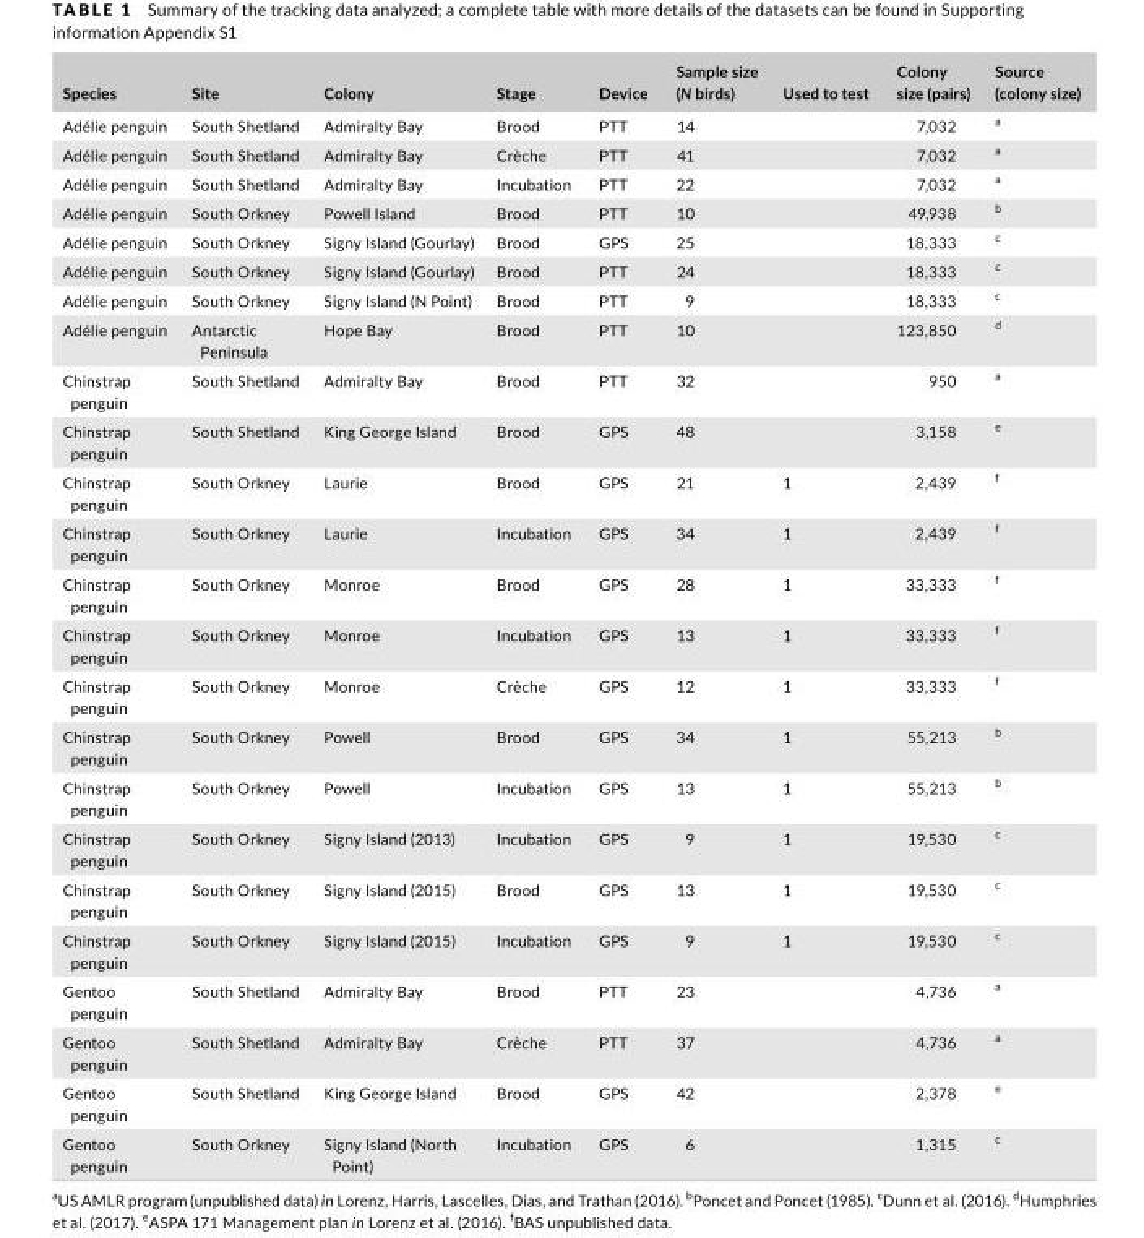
<table><thead><tr><td>Species</td><td>Site</td><td>Colony</td><td>Stage</td><td>Device</td><td>Sample size (N birds)</td><td>Used to test</td><td>Colony size (pairs)</td><td>Source (colony size)</td></tr></thead><tbody><tr><td>Adélie penguin</td><td>South Shetland</td><td>Admiralty Bay</td><td>Brood</td><td>PTT</td><td>14</td><td></td><td>7,032</td><td>a</td></tr><tr><td>Adélie penguin</td><td>South Shetland</td><td>Admiralty Bay</td><td>Crèche</td><td>PTT</td><td>41</td><td></td><td>7,032</td><td>a</td></tr><tr><td>Adélie penguin</td><td>South Shetland</td><td>Admiralty Bay</td><td>Incubation</td><td>PTT</td><td>22</td><td></td><td>7,032</td><td>a</td></tr><tr><td>Adélie penguin</td><td>South Orkney</td><td>Powell Island</td><td>Brood</td><td>PTT</td><td>10</td><td></td><td>49,938</td><td>b</td></tr><tr><td>Adélie penguin</td><td>South Orkney</td><td>Signy Island (Gourlay)</td><td>Brood</td><td>GPS</td><td>25</td><td></td><td>18,333</td><td>c</td></tr><tr><td>Adélie penguin</td><td>South Orkney</td><td>Signy Island (Gourlay)</td><td>Brood</td><td>PTT</td><td>24</td><td></td><td>18,333</td><td>c</td></tr><tr><td>Adélie penguin</td><td>South Orkney</td><td>Signy Island (N Point)</td><td>Brood</td><td>PTT</td><td>9</td><td></td><td>18,333</td><td>c</td></tr><tr><td>Adélie penguin</td><td>Antarctic Peninsula</td><td>Hope Bay</td><td>Brood</td><td>PTT</td><td>10</td><td></td><td>123,850</td><td>d</td></tr><tr><td>Chinstrap penguin</td><td>South Shetland</td><td>Admiralty Bay</td><td>Brood</td><td>PTT</td><td>32</td><td></td><td>950</td><td>a</td></tr><tr><td>Chinstrap penguin</td><td>South Shetland</td><td>King George Island</td><td>Brood</td><td>GPS</td><td>48</td><td></td><td>3,158</td><td>e</td></tr><tr><td>Chinstrap penguin</td><td>South Orkney</td><td>Laurie</td><td>Brood</td><td>GPS</td><td>21</td><td>1</td><td>2,439</td><td>f</td></tr><tr><td>Chinstrap penguin</td><td>South Orkney</td><td>Laurie</td><td>Incubation</td><td>GPS</td><td>34</td><td>1</td><td>2,439</td><td>f</td></tr><tr><td>Chinstrap penguin</td><td>South Orkney</td><td>Monroe</td><td>Brood</td><td>GPS</td><td>28</td><td>1</td><td>33,333</td><td>f</td></tr><tr><td>Chinstrap penguin</td><td>South Orkney</td><td>Monroe</td><td>Incubation</td><td>GPS</td><td>13</td><td>1</td><td>33,333</td><td>f</td></tr><tr><td>Chinstrap penguin</td><td>South Orkney</td><td>Monroe</td><td>Crèche</td><td>GPS</td><td>12</td><td>1</td><td>33,333</td><td>f</td></tr><tr><td>Chinstrap penguin</td><td>South Orkney</td><td>Powell</td><td>Brood</td><td>GPS</td><td>34</td><td>1</td><td>55,213</td><td>b</td></tr><tr><td>Chinstrap penguin</td><td>South Orkney</td><td>Powell</td><td>Incubation</td><td>GPS</td><td>13</td><td>1</td><td>55,213</td><td>b</td></tr><tr><td>Chinstrap penguin</td><td>South Orkney</td><td>Signy Island (2013)</td><td>Incubation</td><td>GPS</td><td>9</td><td>1</td><td>19,530</td><td>c</td></tr><tr><td>Chinstrap penguin</td><td>South Orkney</td><td>Signy Island (2015)</td><td>Brood</td><td>GPS</td><td>13</td><td>1</td><td>19,530</td><td>c</td></tr><tr><td>Chinstrap penguin</td><td>South Orkney</td><td>Signy Island (2015)</td><td>Incubation</td><td>GPS</td><td>9</td><td>1</td><td>19,530</td><td>c</td></tr><tr><td>Gentoo penguin</td><td>South Shetland</td><td>Admiralty Bay</td><td>Brood</td><td>PTT</td><td>23</td><td></td><td>4,736</td><td>a</td></tr><tr><td>Gentoo penguin</td><td>South Shetland</td><td>Admiralty Bay</td><td>Crèche</td><td>PTT</td><td>37</td><td></td><td>4,736</td><td>a</td></tr><tr><td>Gentoo penguin</td><td>South Shetland</td><td>King George Island</td><td>Brood</td><td>GPS</td><td>42</td><td></td><td>2,378</td><td>e</td></tr><tr><td>Gentoo penguin</td><td>South Orkney</td><td>Signy Island (North Point)</td><td>Incubation</td><td>GPS</td><td>6</td><td></td><td>1,315</td><td>c</td></tr></tbody></table>